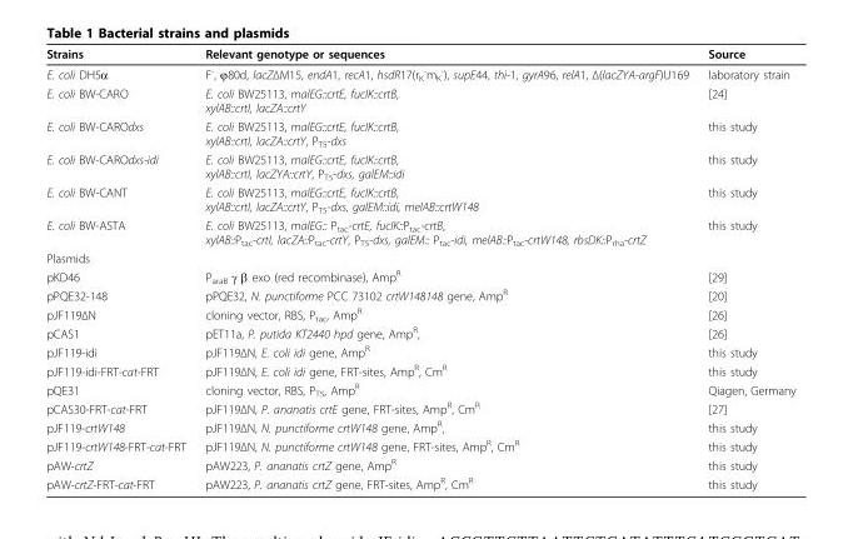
<table><thead><tr><td>Strains</td><td>Relevant genotype or sequences</td><td>Source</td></tr></thead><tbody><tr><td>E. coli DH5α</td><td>F<sup>-</sup>, ϕ80d, lacZΔM15, endA1, recA1, hsdR17(r<sub>K</sub> <sup>-</sup>m<sub>K</sub> <sup>-</sup>), supE44, thi-1, gyrA96, relA1, Δ(lacZYA-argF)U169</td><td>laboratory strain</td></tr><tr><td>E. coli BW-CARO</td><td>E. coli BW25113, malEG::crtE, fucIK::crtB, xylAB::crtI, lacZA::crtY</td><td>[24]</td></tr><tr><td>E. coli BW-CAROdxs</td><td>E. coli BW25113, malEG::crtE, fucIK::crtB, xylAB::crtI, lacZA::crtY, P<sub>T5</sub>-dxs</td><td>this study</td></tr><tr><td>E. coli BW-CAROdxs-idi</td><td>E. coli BW25113, malEG::crtE, fucIK::crtB, xylAB::crtI, lacZYA::crtY, P<sub>T5</sub>-dxs, galEM::idi</td><td>this study</td></tr><tr><td>E. coli BW-CANT</td><td>E. coli BW25113, malEG::crtE, fucIK::crtB, xylAB::crtI, lacZA::crtY, P<sub>T5</sub>-dxs, galEM::idi, melAB::crtW148</td><td>this study</td></tr><tr><td>E. coli BW-ASTA</td><td>E. coli BW25113, malEG:: P<sub>tac</sub>-crtE, fucIK::P<sub>tac</sub>-crtB, xylAB::P<sub>tac</sub>-crtI, lacZA::P<sub>tac</sub>-crtY, P<sub>T5</sub>-dxs, galEM:: P<sub>tac</sub>-idi, melAB::P<sub>tac</sub>-crtW148, rbsDK::P<sub>rha</sub>-crtZ</td><td>this study</td></tr><tr><td colspan="3">Plasmids</td></tr><tr><td>pKD46</td><td>P<sub>araB</sub> γ β exo (red recombinase), Amp<sup>R</sup></td><td>[29]</td></tr><tr><td>pPQE32-148</td><td>pPQE32, N. punctiforme PCC 73102 crtW148148 gene, Amp<sup>R</sup></td><td>[20]</td></tr><tr><td>pJF119ΔN</td><td>cloning vector, RBS, P<sub>tac</sub>, Amp<sup>R</sup></td><td>[26]</td></tr><tr><td>pCAS1</td><td>pET11a, P. putida KT2440 hpd gene, Amp<sup>R</sup>,</td><td>[26]</td></tr><tr><td>pJF119-idi</td><td>pJF119ΔN, E. coli idi gene, Amp<sup>R</sup></td><td>this study</td></tr><tr><td>pJF119-idi-FRT-cat-FRT</td><td>pJF119ΔN, E. coli idi gene, FRT-sites, Amp<sup>R</sup>, Cm<sup>R</sup></td><td>this study</td></tr><tr><td>pQE31</td><td>cloning vector, RBS, P<sub>T5</sub>, Amp<sup>R</sup></td><td>Qiagen, Germany</td></tr><tr><td>pCAS30-FRT-cat-FRT</td><td>pJF119ΔN, P. ananatis crtE gene, FRT-sites, Amp<sup>R</sup>, Cm<sup>R</sup></td><td>[27]</td></tr><tr><td>pJF119-crtW148</td><td>pJF119ΔN, N. punctiforme crtW148 gene, Amp<sup>R</sup>,</td><td>this study</td></tr><tr><td>pJF119-crtW148-FRT-cat-FRT</td><td>pJF119ΔN, N. punctiforme crtW148 gene, FRT-sites, Amp<sup>R</sup>, Cm<sup>R</sup></td><td>this study</td></tr><tr><td>pAW-crtZ</td><td>pAW223, P. ananatis crtZ gene, Amp<sup>R</sup></td><td>this study</td></tr><tr><td>pAW-crtZ-FRT-cat-FRT</td><td>pAW223, P. ananatis crtZ gene, FRT-sites, Amp<sup>R</sup>, Cm<sup>R</sup></td><td>this study</td></tr></tbody></table>